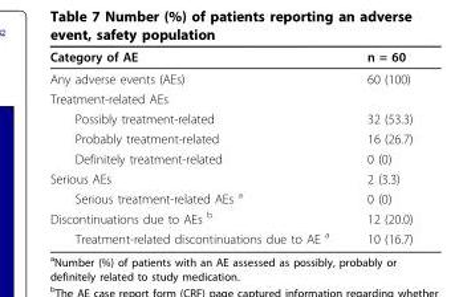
<table><thead><tr><td>Category of AE</td><td>n = 60</td></tr></thead><tbody><tr><td>Any adverse events (AEs)</td><td>60 (100)</td></tr><tr><td colspan="2">Treatment-related AEs</td></tr><tr><td>Possibly treatment-related</td><td>32 (53.3)</td></tr><tr><td>Probably treatment-related</td><td>16 (26.7)</td></tr><tr><td>Definitely treatment-related</td><td>0 (0)</td></tr><tr><td>Serious AEs</td><td>2 (3.3)</td></tr><tr><td>Serious treatment-related AEs <sup>a</sup></td><td>0 (0)</td></tr><tr><td>Discontinuations due to AEs <sup>b</sup></td><td>12 (20.0)</td></tr><tr><td>Treatment-related discontinuations due to AE <sup>a</sup></td><td>10 (16.7)</td></tr></tbody></table>